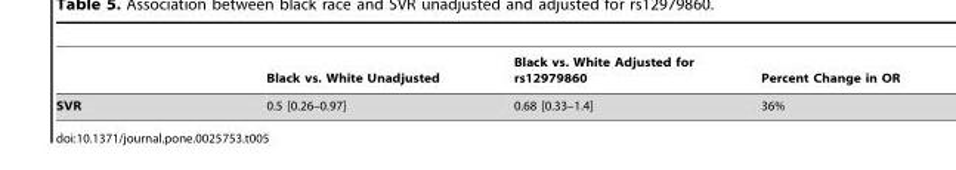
<table><thead><tr><td></td><td>Black vs. White Unadjusted</td><td>Black vs. White Adjusted for rs12979860</td><td>Percent Change in OR</td></tr></thead><tbody><tr><td>SVR</td><td>0.5 [0.26–0.97]</td><td>0.68 [0.33–1.4]</td><td>36%</td></tr></tbody></table>